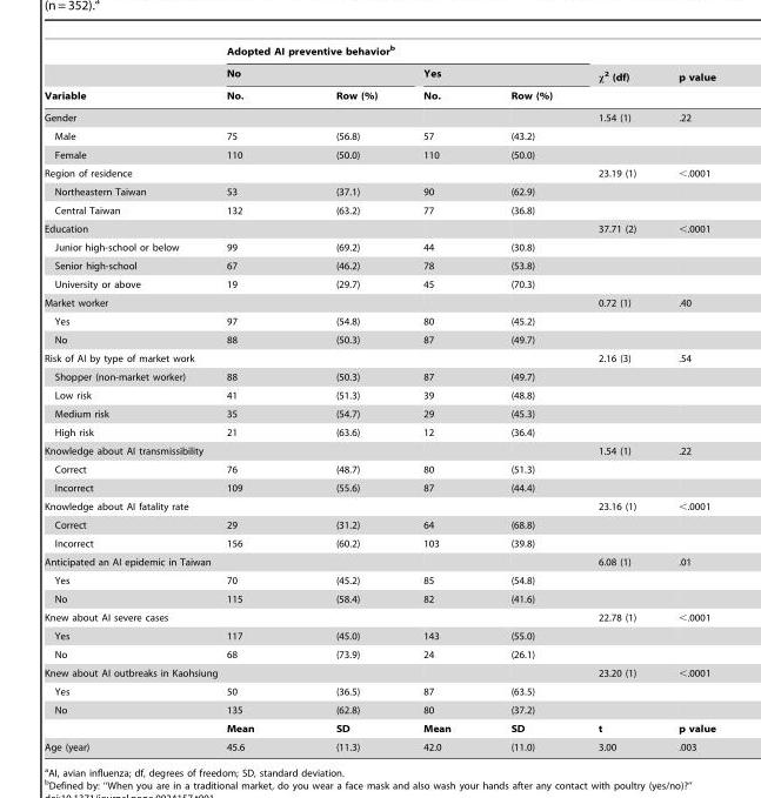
<table><thead><tr><td rowspan="3">Variable</td><td colspan="4">Adopted AI preventive behavior<sup>b</sup></td><td rowspan="3">χ<sup>2</sup> (df)</td><td rowspan="3">p value</td></tr><tr><td colspan="2">No</td><td colspan="2">Yes</td></tr><tr><td>No.</td><td>Row (%)</td><td>No.</td><td>Row (%)</td></tr></thead><tbody><tr><td>Gender</td><td></td><td></td><td></td><td></td><td>1.54 (1)</td><td>.22</td></tr><tr><td>Male</td><td>75</td><td>(56.8)</td><td>57</td><td>(43.2)</td><td></td><td></td></tr><tr><td>Female</td><td>110</td><td>(50.0)</td><td>110</td><td>(50.0)</td><td></td><td></td></tr><tr><td>Region of residence</td><td></td><td></td><td></td><td></td><td>23.19 (1)</td><td>&lt;.0001</td></tr><tr><td>Northeastern Taiwan</td><td>53</td><td>(37.1)</td><td>90</td><td>(62.9)</td><td></td><td></td></tr><tr><td>Central Taiwan</td><td>132</td><td>(63.2)</td><td>77</td><td>(36.8)</td><td></td><td></td></tr><tr><td>Education</td><td></td><td></td><td></td><td></td><td>37.71 (2)</td><td>&lt;.0001</td></tr><tr><td>Junior high-school or below</td><td>99</td><td>(69.2)</td><td>44</td><td>(30.8)</td><td></td><td></td></tr><tr><td>Senior high-school</td><td>67</td><td>(46.2)</td><td>78</td><td>(53.8)</td><td></td><td></td></tr><tr><td>University or above</td><td>19</td><td>(29.7)</td><td>45</td><td>(70.3)</td><td></td><td></td></tr><tr><td>Market worker</td><td></td><td></td><td></td><td></td><td>0.72 (1)</td><td>.40</td></tr><tr><td>Yes</td><td>97</td><td>(54.8)</td><td>80</td><td>(45.2)</td><td></td><td></td></tr><tr><td>No</td><td>88</td><td>(50.3)</td><td>87</td><td>(49.7)</td><td></td><td></td></tr><tr><td>Risk of AI by type of market work</td><td></td><td></td><td></td><td></td><td>2.16 (3)</td><td>.54</td></tr><tr><td>Shopper (non-market worker)</td><td>88</td><td>(50.3)</td><td>87</td><td>(49.7)</td><td></td><td></td></tr><tr><td>Low risk</td><td>41</td><td>(51.3)</td><td>39</td><td>(48.8)</td><td></td><td></td></tr><tr><td>Medium risk</td><td>35</td><td>(54.7)</td><td>29</td><td>(45.3)</td><td></td><td></td></tr><tr><td>High risk</td><td>21</td><td>(63.6)</td><td>12</td><td>(36.4)</td><td></td><td></td></tr><tr><td>Knowledge about AI transmissibility</td><td></td><td></td><td></td><td></td><td>1.54 (1)</td><td>.22</td></tr><tr><td>Correct</td><td>76</td><td>(48.7)</td><td>80</td><td>(51.3)</td><td></td><td></td></tr><tr><td>Incorrect</td><td>109</td><td>(55.6)</td><td>87</td><td>(44.4)</td><td></td><td></td></tr><tr><td>Knowledge about AI fatality rate</td><td></td><td></td><td></td><td></td><td>23.16 (1)</td><td>&lt;.0001</td></tr><tr><td>Correct</td><td>29</td><td>(31.2)</td><td>64</td><td>(68.8)</td><td></td><td></td></tr><tr><td>Incorrect</td><td>156</td><td>(60.2)</td><td>103</td><td>(39.8)</td><td></td><td></td></tr><tr><td>Anticipated an AI epidemic in Taiwan</td><td></td><td></td><td></td><td></td><td>6.08 (1)</td><td>.01</td></tr><tr><td>Yes</td><td>70</td><td>(45.2)</td><td>85</td><td>(54.8)</td><td></td><td></td></tr><tr><td>No</td><td>115</td><td>(58.4)</td><td>82</td><td>(41.6)</td><td></td><td></td></tr><tr><td>Knew about AI severe cases</td><td></td><td></td><td></td><td></td><td>22.78 (1)</td><td>&lt;.0001</td></tr><tr><td>Yes</td><td>117</td><td>(45.0)</td><td>143</td><td>(55.0)</td><td></td><td></td></tr><tr><td>No</td><td>68</td><td>(73.9)</td><td>24</td><td>(26.1)</td><td></td><td></td></tr><tr><td>Knew about AI outbreaks in Kaohsiung</td><td></td><td></td><td></td><td></td><td>23.20 (1)</td><td>&lt;.0001</td></tr><tr><td>Yes</td><td>50</td><td>(36.5)</td><td>87</td><td>(63.5)</td><td></td><td></td></tr><tr><td rowspan="2">No</td><td>135</td><td>(62.8)</td><td>80</td><td>(37.2)</td><td></td><td></td></tr><tr><td>Mean</td><td>SD</td><td>Mean</td><td>SD</td><td>t</td><td>p value</td></tr><tr><td>Age (year)</td><td>45.6</td><td>(11.3)</td><td>42.0</td><td>(11.0)</td><td>3.00</td><td>.003</td></tr></tbody></table>